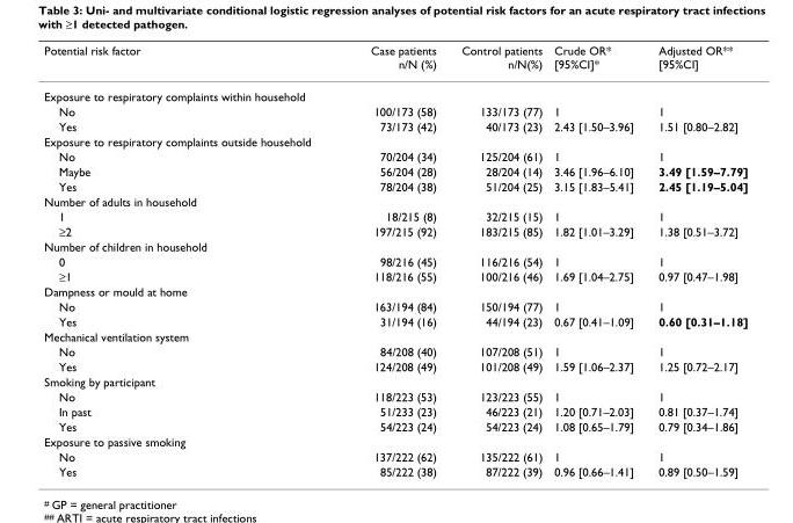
<table><thead><tr><td>Potential risk factor</td><td>Case patients n/N (%)</td><td>Control patients n/N(%)</td><td>Crude OR* [95%CI]*</td><td>Adjusted OR** [95%CI]</td></tr></thead><tbody><tr><td colspan="5">Exposure to respiratory complaints within household</td></tr><tr><td>No</td><td>100/173 (58)</td><td>133/173 (77)</td><td>1</td><td>1</td></tr><tr><td>Yes</td><td>73/173 (42)</td><td>40/173 (23)</td><td>2.43 [1.50–3.96]</td><td>1.51 [0.80–2.82]</td></tr><tr><td colspan="5">Exposure to respiratory complaints outside household</td></tr><tr><td>No</td><td>70/204 (34)</td><td>125/204 (61)</td><td>1</td><td>1</td></tr><tr><td>Maybe</td><td>56/204 (28)</td><td>28/204 (14)</td><td>3.46 [1.96–6.10]</td><td>3.49 [1.59–7.79]</td></tr><tr><td>Yes</td><td>78/204 (38)</td><td>51/204 (25)</td><td>3.15 [1.83–5.41]</td><td>2.45 [1.19–5.04]</td></tr><tr><td colspan="5">Number of adults in household</td></tr><tr><td>1</td><td>18/215 (8)</td><td>32/215 (15)</td><td>1</td><td>1</td></tr><tr><td>≥2</td><td>197/215 (92)</td><td>183/215 (85)</td><td>1.82 [1.01–3.29]</td><td>1.38 [0.51–3.72]</td></tr><tr><td colspan="5">Number of children in household</td></tr><tr><td>0</td><td>98/216 (45)</td><td>116/216 (54)</td><td>1</td><td>1</td></tr><tr><td>≥1</td><td>118/216 (55)</td><td>100/216 (46)</td><td>1.69 [1.04–2.75]</td><td>0.97 [0.47–1.98]</td></tr><tr><td colspan="5">Dampness or mould at home</td></tr><tr><td>No</td><td>163/194 (84)</td><td>150/194 (77)</td><td>1</td><td>1</td></tr><tr><td>Yes</td><td>31/194 (16)</td><td>44/194 (23)</td><td>0.67 [0.41–1.09]</td><td>0.60 [0.31–1.18]</td></tr><tr><td colspan="5">Mechanical ventilation system</td></tr><tr><td>No</td><td>84/208 (40)</td><td>107/208 (51)</td><td>1</td><td>1</td></tr><tr><td>Yes</td><td>124/208 (49)</td><td>101/208 (49)</td><td>1.59 [1.06–2.37]</td><td>1.25 [0.72–2.17]</td></tr><tr><td colspan="5">Smoking by participant</td></tr><tr><td>No</td><td>118/223 (53)</td><td>123/223 (55)</td><td>1</td><td>1</td></tr><tr><td>In past</td><td>51/233 (23)</td><td>46/223 (21)</td><td>1.20 [0.71–2.03]</td><td>0.81 [0.37–1.74]</td></tr><tr><td>Yes</td><td>54/223 (24)</td><td>54/223 (24)</td><td>1.08 [0.65–1.79]</td><td>0.79 [0.34–1.86]</td></tr><tr><td colspan="5">Exposure to passive smoking</td></tr><tr><td>No</td><td>137/222 (62)</td><td>135/222 (61)</td><td>1</td><td>1</td></tr><tr><td>Yes</td><td>85/222 (38)</td><td>87/222 (39)</td><td>0.96 [0.66–1.41]</td><td>0.89 [0.50–1.59]</td></tr></tbody></table>